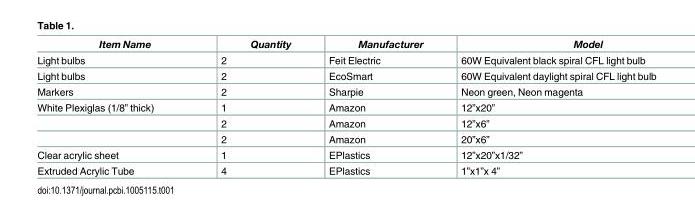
<table><thead><tr><td>Item Name</td><td>Quantity</td><td>Manufacturer</td><td>Model</td></tr></thead><tbody><tr><td>Light bulbs</td><td>2</td><td>Feit Electric</td><td>60W Equivalent black spiral CFL light bulb</td></tr><tr><td>Light bulbs</td><td>2</td><td>EcoSmart</td><td>60W Equivalent daylight spiral CFL light bulb</td></tr><tr><td>Markers</td><td>2</td><td>Sharpie</td><td>Neon green, Neon magenta</td></tr><tr><td rowspan="3">White Plexiglas (1/8” thick)</td><td>1</td><td>Amazon</td><td>12”x20”</td></tr><tr><td>2</td><td>Amazon</td><td>12”x6”</td></tr><tr><td>2</td><td>Amazon</td><td>20”x6”</td></tr><tr><td>Clear acrylic sheet</td><td>1</td><td>EPlastics</td><td>12”x20”x1/32”</td></tr><tr><td>Extruded Acrylic Tube</td><td>4</td><td>EPlastics</td><td>1”x1”x 4”</td></tr></tbody></table>